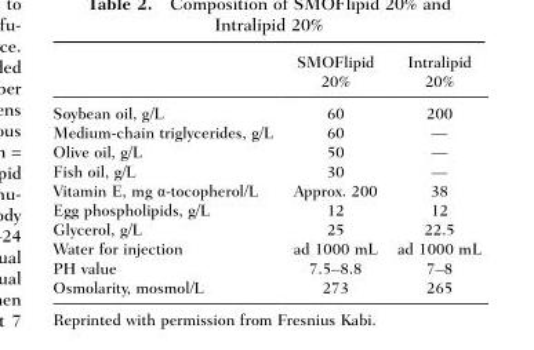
<table><thead><tr><td></td><td>SMOFlipid 20%</td><td>Intralipid 20%</td></tr></thead><tbody><tr><td>Soybean oil, g/L</td><td>60</td><td>200</td></tr><tr><td>Medium-chain triglycerides, g/L</td><td>60</td><td>—</td></tr><tr><td>Olive oil, g/L</td><td>50</td><td>—</td></tr><tr><td>Fish oil, g/L</td><td>30</td><td>—</td></tr><tr><td>Vitamin E, mg α-tocopherol/L</td><td>Approx. 200</td><td>38</td></tr><tr><td>Egg phospholipids, g/L</td><td>12</td><td>12</td></tr><tr><td>Glycerol, g/L</td><td>25</td><td>22.5</td></tr><tr><td>Water for injection</td><td>ad 1000 mL</td><td>ad 1000 mL</td></tr><tr><td>PH value</td><td>7.5–8.8</td><td>7–8</td></tr><tr><td>Osmolarity, mosmol/L</td><td>273</td><td>265</td></tr></tbody></table>